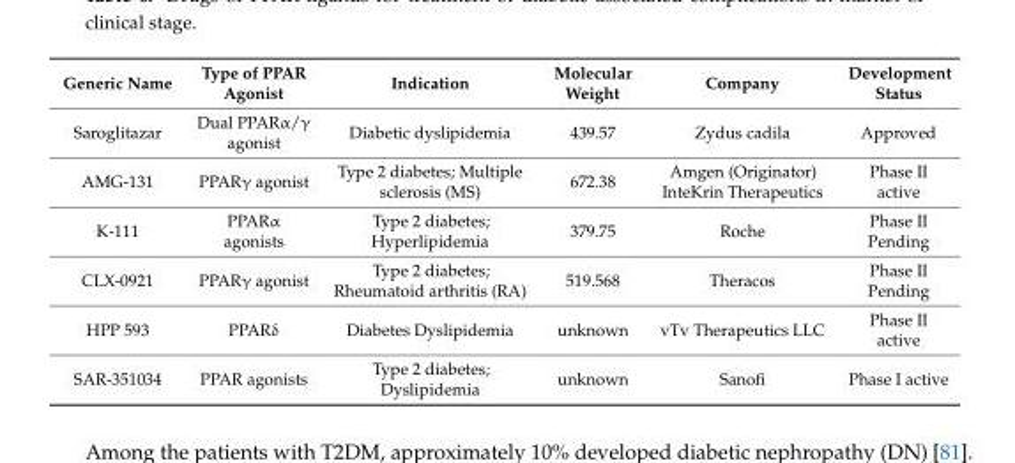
<table><thead><tr><td>Generic Name</td><td>Type of PPAR Agonist</td><td>Indication</td><td>Molecular Weight</td><td>Company</td><td>Development Status</td></tr></thead><tbody><tr><td>Saroglitazar</td><td>Dual PPARα/γ agonist</td><td>Diabetic dyslipidemia</td><td>439.57</td><td>Zydus cadila</td><td>Approved</td></tr><tr><td>AMG-131</td><td>PPARγ agonist</td><td>Type 2 diabetes; Multiple sclerosis (MS)</td><td>672.38</td><td>Amgen (Originator) InteKrin Therapeutics</td><td>Phase II active</td></tr><tr><td>K-111</td><td>PPARα agonists</td><td>Type 2 diabetes; Hyperlipidemia</td><td>379.75</td><td>Roche</td><td>Phase II Pending</td></tr><tr><td>CLX-0921</td><td>PPARγ agonist</td><td>Type 2 diabetes; Rheumatoid arthritis (RA)</td><td>519.568</td><td>Theracos</td><td>Phase II Pending</td></tr><tr><td>HPP 593</td><td>PPARδ</td><td>Diabetes Dyslipidemia</td><td>unknown</td><td>vTv Therapeutics LLC</td><td>Phase II active</td></tr><tr><td>SAR-351034</td><td>PPAR agonists</td><td>Type 2 diabetes; Dyslipidemia</td><td>unknown</td><td>Sanofi</td><td>Phase I active</td></tr></tbody></table>